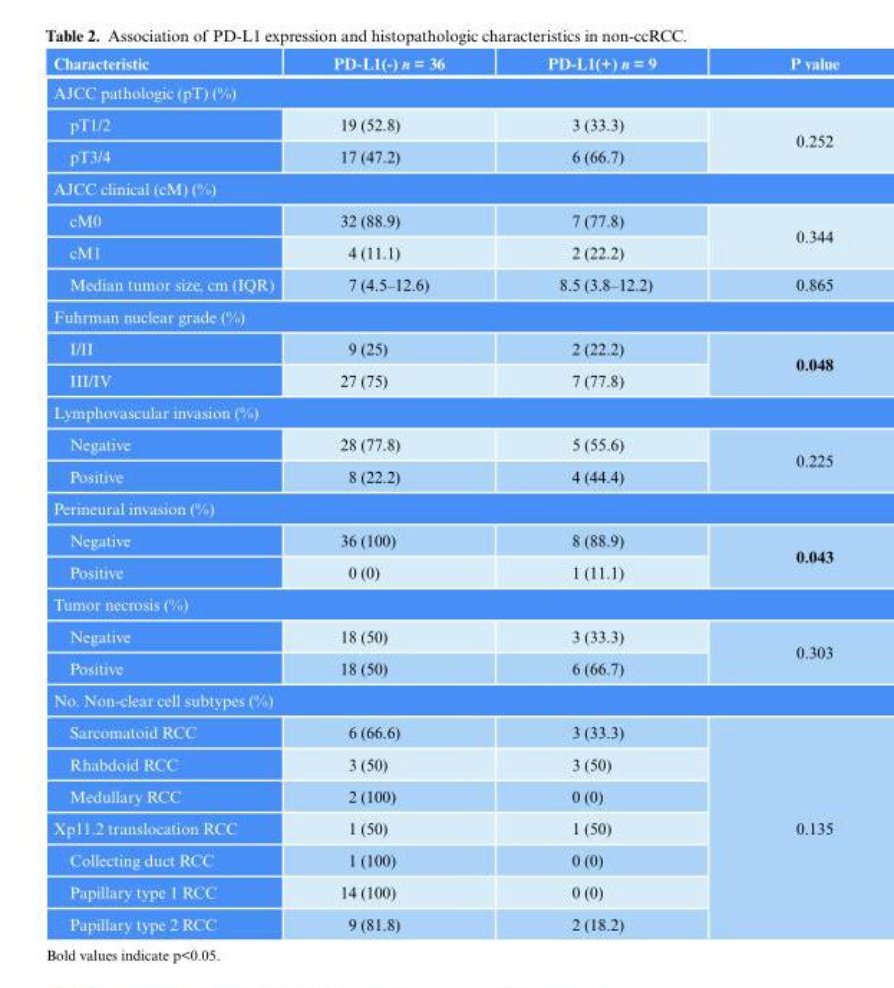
<table><thead><tr><td>Characteristic</td><td>PD-L1(-) n = 36</td><td>PD-L1(+) n = 9</td><td>P value</td></tr></thead><tbody><tr><td colspan="4">AJCC pathologic (pT) (%)</td></tr><tr><td>pT1/2</td><td>19 (52.8)</td><td>3 (33.3)</td><td rowspan="2">0.252</td></tr><tr><td>pT3/4</td><td>17 (47.2)</td><td>6 (66.7)</td></tr><tr><td colspan="4">AJCC clinical (cM) (%)</td></tr><tr><td>cM0</td><td>32 (88.9)</td><td>7 (77.8)</td><td rowspan="2">0.344</td></tr><tr><td>cM1</td><td>4 (11.1)</td><td>2 (22.2)</td></tr><tr><td>Median tumor size, cm (IQR)</td><td>7 (4.5–12.6)</td><td>8.5 (3.8–12.2)</td><td>0.865</td></tr><tr><td colspan="4">Fuhrman nuclear grade (%)</td></tr><tr><td>I/II</td><td>9 (25)</td><td>2 (22.2)</td><td rowspan="2">0.048</td></tr><tr><td>III/IV</td><td>27 (75)</td><td>7 (77.8)</td></tr><tr><td colspan="4">Lymphovascular invasion (%)</td></tr><tr><td>Negative</td><td>28 (77.8)</td><td>5 (55.6)</td><td rowspan="2">0.225</td></tr><tr><td>Positive</td><td>8 (22.2)</td><td>4 (44.4)</td></tr><tr><td colspan="4">Perineural invasion (%)</td></tr><tr><td>Negative</td><td>36 (100)</td><td>8 (88.9)</td><td rowspan="2">0.043</td></tr><tr><td>Positive</td><td>0 (0)</td><td>1 (11.1)</td></tr><tr><td colspan="4">Tumor necrosis (%)</td></tr><tr><td>Negative</td><td>18 (50)</td><td>3 (33.3)</td><td rowspan="2">0.303</td></tr><tr><td>Positive</td><td>18 (50)</td><td>6 (66.7)</td></tr><tr><td colspan="4">No. Non-clear cell subtypes (%)</td></tr><tr><td>Sarcomatoid RCC</td><td>6 (66.6)</td><td>3 (33.3)</td><td rowspan="7">0.135</td></tr><tr><td>Rhabdoid RCC</td><td>3 (50)</td><td>3 (50)</td></tr><tr><td>Medullary RCC</td><td>2 (100)</td><td>0 (0)</td></tr><tr><td>Xp11.2 translocation RCC</td><td>1 (50)</td><td>1 (50)</td></tr><tr><td>Collecting duct RCC</td><td>1 (100)</td><td>0 (0)</td></tr><tr><td>Papillary type 1 RCC</td><td>14 (100)</td><td>0 (0)</td></tr><tr><td>Papillary type 2 RCC</td><td>9 (81.8)</td><td>2 (18.2)</td></tr></tbody></table>